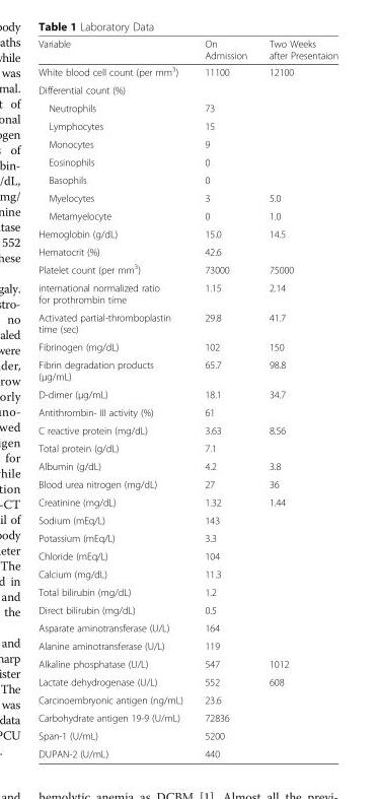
<table><thead><tr><td>Variable</td><td>On Admission</td><td>Two Weeks after Presentaion</td></tr></thead><tbody><tr><td>White blood cell count (per mm<sup>3</sup>)</td><td>11100</td><td>12100</td></tr><tr><td colspan="3">Differential count (%)</td></tr><tr><td>Neutrophils</td><td>73</td><td></td></tr><tr><td>Lymphocytes</td><td>15</td><td></td></tr><tr><td>Monocytes</td><td>9</td><td></td></tr><tr><td>Eosinophils</td><td>0</td><td></td></tr><tr><td>Basophils</td><td>0</td><td></td></tr><tr><td>Myelocytes</td><td>3</td><td>5.0</td></tr><tr><td>Metamyelocyte</td><td>0</td><td>1.0</td></tr><tr><td>Hemoglobin (g/dL)</td><td>15.0</td><td>14.5</td></tr><tr><td>Hematocrit (%)</td><td>42.6</td><td></td></tr><tr><td>Platelet count (per mm<sup>3</sup>)</td><td>73000</td><td>75000</td></tr><tr><td>international normalized ratio for prothrombin time</td><td>1.15</td><td>2.14</td></tr><tr><td>Activated partial-thromboplastin time (sec)</td><td>29.8</td><td>41.7</td></tr><tr><td>Fibrinogen (mg/dL)</td><td>102</td><td>150</td></tr><tr><td>Fibrin degradation products (μg/mL)</td><td>65.7</td><td>98.8</td></tr><tr><td>D-dimer (μg/mL)</td><td>18.1</td><td>34.7</td></tr><tr><td>Antithrombin- III activity (%)</td><td>61</td><td></td></tr><tr><td>C reactive protein (mg/dL)</td><td>3.63</td><td>8.56</td></tr><tr><td>Total protein (g/dL)</td><td>7.1</td><td></td></tr><tr><td>Albumin (g/dL)</td><td>4.2</td><td>3.8</td></tr><tr><td>Blood urea nitrogen (mg/dL)</td><td>27</td><td>36</td></tr><tr><td>Creatinine (mg/dL)</td><td>1.32</td><td>1.44</td></tr><tr><td>Sodium (mEq/L)</td><td>143</td><td></td></tr><tr><td>Potassium (mEq/L)</td><td>3.3</td><td></td></tr><tr><td>Chloride (mEq/L)</td><td>104</td><td></td></tr><tr><td>Calcium (mg/dL)</td><td>11.3</td><td></td></tr><tr><td>Total bilirubin (mg/dL)</td><td>1.2</td><td></td></tr><tr><td>Direct bilirubin (mg/dL)</td><td>0.5</td><td></td></tr><tr><td>Asparate aminotransferase (U/L)</td><td>164</td><td></td></tr><tr><td>Alanine aminotransferase (U/L)</td><td>119</td><td></td></tr><tr><td>Alkaline phosphatase (U/L)</td><td>547</td><td>1012</td></tr><tr><td>Lactate dehydrogenase (U/L)</td><td>552</td><td>608</td></tr><tr><td>Carcinoembryonic antigen (ng/mL)</td><td>23.6</td><td></td></tr><tr><td>Carbohydrate antigen 19-9 (U/mL)</td><td>72836</td><td></td></tr><tr><td>Span-1 (U/mL)</td><td>5200</td><td></td></tr><tr><td>DUPAN-2 (U/mL)</td><td>440</td><td></td></tr></tbody></table>